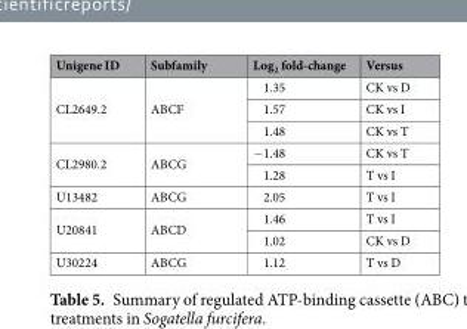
<table><thead><tr><td>Unigene ID</td><td>Subfamily</td><td>Log<sub>2</sub> fold-change</td><td>Versus</td></tr></thead><tbody><tr><td rowspan="3">CL2649.2</td><td rowspan="3">ABCF</td><td>1.35</td><td>CK vs D</td></tr><tr><td>1.57</td><td>CK vs I</td></tr><tr><td>1.48</td><td>CK vs T</td></tr><tr><td rowspan="2">CL2980.2</td><td rowspan="2">ABCG</td><td>−1.48</td><td>CK vs T</td></tr><tr><td>1.28</td><td>T vs I</td></tr><tr><td>U13482</td><td>ABCG</td><td>2.05</td><td>T vs I</td></tr><tr><td rowspan="2">U20841</td><td rowspan="2">ABCD</td><td>1.46</td><td>T vs I</td></tr><tr><td>1.02</td><td>CK vs D</td></tr><tr><td>U30224</td><td>ABCG</td><td>1.12</td><td>T vs D</td></tr></tbody></table>